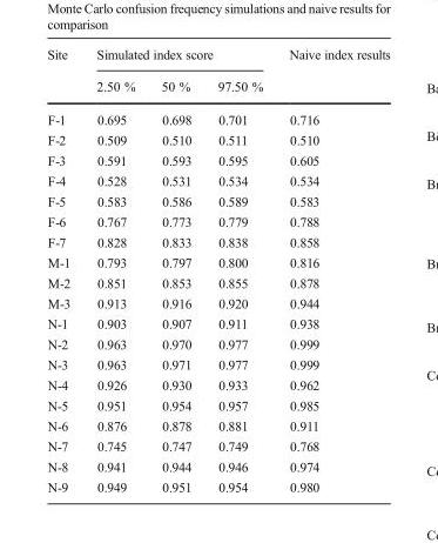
<table><thead><tr><td rowspan="2">Site</td><td colspan="3">Simulated index score</td><td rowspan="2">Naive index results</td></tr><tr><td>2.50 %</td><td>50 %</td><td>97.50 %</td></tr></thead><tbody><tr><td>F-1</td><td>0.695</td><td>0.698</td><td>0.701</td><td>0.716</td></tr><tr><td>F-2</td><td>0.509</td><td>0.510</td><td>0.511</td><td>0.510</td></tr><tr><td>F-3</td><td>0.591</td><td>0.593</td><td>0.595</td><td>0.605</td></tr><tr><td>F-4</td><td>0.528</td><td>0.531</td><td>0.534</td><td>0.534</td></tr><tr><td>F-5</td><td>0.583</td><td>0.586</td><td>0.589</td><td>0.583</td></tr><tr><td>F-6</td><td>0.767</td><td>0.773</td><td>0.779</td><td>0.788</td></tr><tr><td>F-7</td><td>0.828</td><td>0.833</td><td>0.838</td><td>0.858</td></tr><tr><td>M-1</td><td>0.793</td><td>0.797</td><td>0.800</td><td>0.816</td></tr><tr><td>M-2</td><td>0.851</td><td>0.853</td><td>0.855</td><td>0.878</td></tr><tr><td>M-3</td><td>0.913</td><td>0.916</td><td>0.920</td><td>0.944</td></tr><tr><td>N-1</td><td>0.903</td><td>0.907</td><td>0.911</td><td>0.938</td></tr><tr><td>N-2</td><td>0.963</td><td>0.970</td><td>0.977</td><td>0.999</td></tr><tr><td>N-3</td><td>0.963</td><td>0.971</td><td>0.977</td><td>0.999</td></tr><tr><td>N-4</td><td>0.926</td><td>0.930</td><td>0.933</td><td>0.962</td></tr><tr><td>N-5</td><td>0.951</td><td>0.954</td><td>0.957</td><td>0.985</td></tr><tr><td>N-6</td><td>0.876</td><td>0.878</td><td>0.881</td><td>0.911</td></tr><tr><td>N-7</td><td>0.745</td><td>0.747</td><td>0.749</td><td>0.768</td></tr><tr><td>N-8</td><td>0.941</td><td>0.944</td><td>0.946</td><td>0.974</td></tr><tr><td>N-9</td><td>0.949</td><td>0.951</td><td>0.954</td><td>0.980</td></tr></tbody></table>